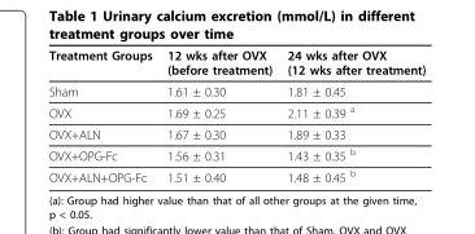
<table><thead><tr><td>Treatment Groups</td><td>12 wks after OVX (before treatment)</td><td>24 wks after OVX (12 wks after treatment)</td></tr></thead><tbody><tr><td>Sham</td><td>1.61 ± 0.30</td><td>1.81 ± 0.45</td></tr><tr><td>OVX</td><td>1.69 ± 0.25</td><td>2.11 ± 0.39 <sup>a</sup></td></tr><tr><td>OVX+ALN</td><td>1.67 ± 0.30</td><td>1.89 ± 0.33</td></tr><tr><td>OVX+OPG-Fc</td><td>1.56 ± 0.31</td><td>1.43 ± 0.35 <sup>b</sup></td></tr><tr><td>OVX+ALN+OPG-Fc</td><td>1.51 ± 0.40</td><td>1.48 ± 0.45 <sup>b</sup></td></tr></tbody></table>